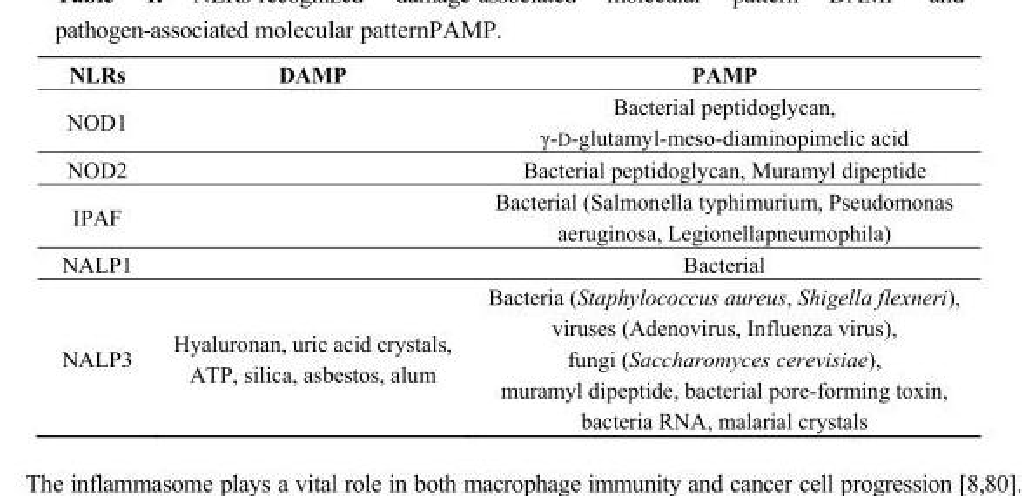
<table><thead><tr><td>NLRs</td><td>DAMP</td><td>PAMP</td></tr></thead><tbody><tr><td>NOD1</td><td></td><td>Bacterial peptidoglycan, γ-D-glutamyl-meso-diaminopimelic acid</td></tr><tr><td>NOD2</td><td></td><td>Bacterial peptidoglycan, Muramyl dipeptide</td></tr><tr><td>IPAF</td><td></td><td>Bacterial (Salmonella typhimurium, Pseudomonas aeruginosa, Legionellapneumophila)</td></tr><tr><td>NALP1</td><td></td><td>Bacterial</td></tr><tr><td>NALP3</td><td>Hyaluronan, uric acid crystals, ATP, silica, asbestos, alum</td><td>Bacteria (Staphylococcus aureus, Shigella flexneri), viruses (Adenovirus, Influenza virus), fungi (Saccharomyces cerevisiae), muramyl dipeptide, bacterial pore-forming toxin, bacteria RNA, malarial crystals</td></tr></tbody></table>